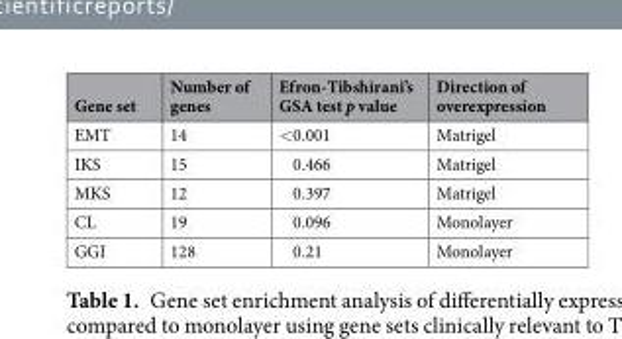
<table><thead><tr><td>Gene set</td><td>Number of genes</td><td>Efron-Tibshirani’s GSA test p value</td><td>Direction of overexpression</td></tr></thead><tbody><tr><td>EMT</td><td>14</td><td>&lt;0.001</td><td>Matrigel</td></tr><tr><td>IKS</td><td>15</td><td>0.466</td><td>Matrigel</td></tr><tr><td>MKS</td><td>12</td><td>0.397</td><td>Matrigel</td></tr><tr><td>CL</td><td>19</td><td>0.096</td><td>Monolayer</td></tr><tr><td>GGI</td><td>128</td><td>0.21</td><td>Monolayer</td></tr></tbody></table>